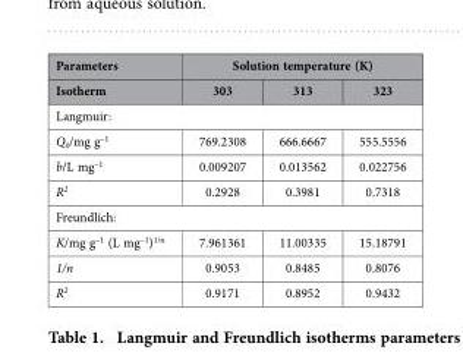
<table><thead><tr><td rowspan="2">Parameters Isotherm</td><td colspan="3">Solution temperature (K)</td></tr><tr><td>303</td><td>313</td><td>323</td></tr></thead><tbody><tr><td colspan="4">Langmuir:</td></tr><tr><td>Q<sub>0</sub>/mg g<sup>–1</sup></td><td>769.2308</td><td>666.6667</td><td>555.5556</td></tr><tr><td>b/L mg<sup>–1</sup></td><td>0.009207</td><td>0.013562</td><td>0.022756</td></tr><tr><td>R<sup>2</sup></td><td>0.2928</td><td>0.3981</td><td>0.7318</td></tr><tr><td colspan="4">Freundlich:</td></tr><tr><td>K/mg g<sup>–1</sup> (L mg<sup>–1</sup>)<sup>1/n</sup></td><td>7.961361</td><td>11.00335</td><td>15.18791</td></tr><tr><td>1/n</td><td>0.9053</td><td>0.8485</td><td>0.8076</td></tr><tr><td>R<sup>2</sup></td><td>0.9171</td><td>0.8952</td><td>0.9432</td></tr></tbody></table>